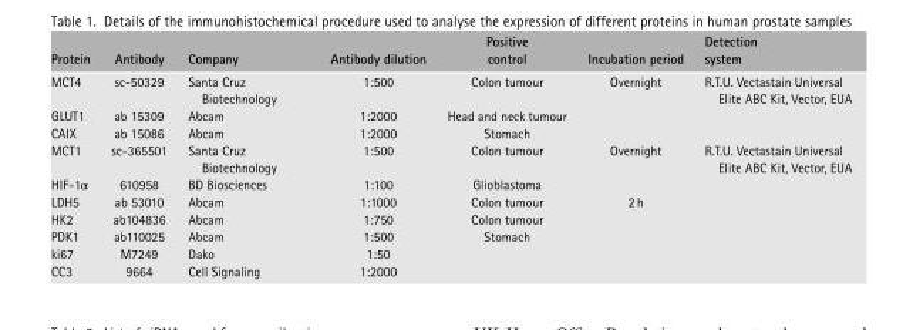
<table><thead><tr><td>Protein</td><td>Antibody</td><td>Company</td><td>Antibody dilution</td><td>control</td><td>Incubation period</td><td>system</td></tr></thead><tbody><tr><td>MCT4</td><td>sc-50329</td><td>Santa Cruz Biotechnology</td><td>1:500</td><td>Colon tumour</td><td>Overnight</td><td>R.T.U. Vectastain Universal Elite ABC Kit, Vector, EUA</td></tr><tr><td>GLUT1</td><td>ab 15309</td><td>Abcam</td><td>1:2000</td><td>Head and neck tumour</td><td rowspan="2"></td><td rowspan="2"></td></tr><tr><td>CAIX</td><td>ab 15086</td><td>Abcam</td><td>1:2000</td><td>Stomach</td></tr><tr><td>MCT1</td><td>sc-365501</td><td>Santa Cruz Biotechnology</td><td>1:500</td><td>Colon tumour</td><td rowspan="2">Overnight</td><td rowspan="7">R.T.U. Vectastain Universal Elite ABC Kit, Vector, EUA</td></tr><tr><td>HIF-1α</td><td>610958</td><td>BD Biosciences</td><td>1:100</td><td>Glioblastoma</td></tr><tr><td>LDH5</td><td>ab 53010</td><td>Abcam</td><td>1:1000</td><td>Colon tumour</td><td rowspan="5">2 h</td></tr><tr><td>HK2</td><td>ab104836</td><td>Abcam</td><td>1:750</td><td>Colon tumour</td></tr><tr><td>PDK1</td><td>ab110025</td><td>Abcam</td><td>1:500</td><td>Stomach</td></tr><tr><td>ki67</td><td>M7249</td><td>Dako</td><td>1:50</td><td></td></tr><tr><td>CC3</td><td>9664</td><td>Cell Signaling</td><td>1:2000</td><td></td></tr></tbody></table>